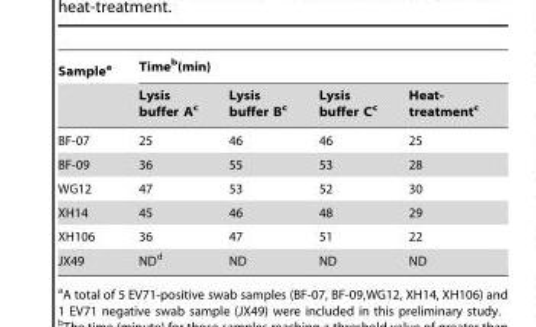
<table><thead><tr><td rowspan="2">Sample<sup>a</sup></td><td colspan="4">Time<sup>b</sup>(min)</td></tr><tr><td>Lysis buffer A<sup>c</sup></td><td>Lysis buffer B<sup>c</sup></td><td>Lysis buffer C<sup>c</sup></td><td>Heat- treatment<sup>c</sup></td></tr></thead><tbody><tr><td>BF-07</td><td>25</td><td>46</td><td>46</td><td>25</td></tr><tr><td>BF-09</td><td>36</td><td>55</td><td>53</td><td>28</td></tr><tr><td>WG12</td><td>47</td><td>53</td><td>52</td><td>30</td></tr><tr><td>XH14</td><td>45</td><td>46</td><td>48</td><td>29</td></tr><tr><td>XH106</td><td>36</td><td>47</td><td>51</td><td>22</td></tr><tr><td>JX49</td><td>ND<sup>d</sup></td><td>ND</td><td>ND</td><td>ND</td></tr></tbody></table>